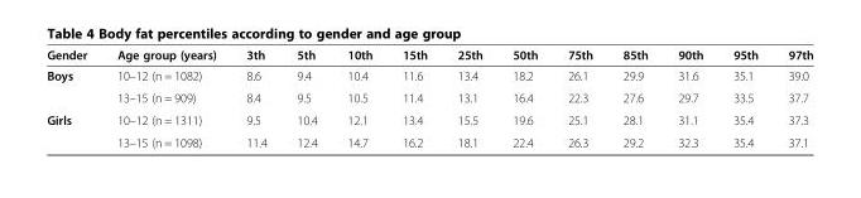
<table><thead><tr><td>Gender</td><td>Age group (years)</td><td>3th</td><td>5th</td><td>10th</td><td>15th</td><td>25th</td><td>50th</td><td>75th</td><td>85th</td><td>90th</td><td>95th</td><td>97th</td></tr></thead><tbody><tr><td rowspan="2">Boys</td><td>10–12 (n = 1082)</td><td>8.6</td><td>9.4</td><td>10.4</td><td>11.6</td><td>13.4</td><td>18.2</td><td>26.1</td><td>29.9</td><td>31.6</td><td>35.1</td><td>39.0</td></tr><tr><td>13–15 (n = 909)</td><td>8.4</td><td>9.5</td><td>10.5</td><td>11.4</td><td>13.1</td><td>16.4</td><td>22.3</td><td>27.6</td><td>29.7</td><td>33.5</td><td>37.7</td></tr><tr><td rowspan="2">Girls</td><td>10–12 (n = 1311)</td><td>9.5</td><td>10.4</td><td>12.1</td><td>13.4</td><td>15.5</td><td>19.6</td><td>25.1</td><td>28.1</td><td>31.1</td><td>35.4</td><td>37.3</td></tr><tr><td>13–15 (n = 1098)</td><td>11.4</td><td>12.4</td><td>14.7</td><td>16.2</td><td>18.1</td><td>22.4</td><td>26.3</td><td>29.2</td><td>32.3</td><td>35.4</td><td>37.1</td></tr></tbody></table>